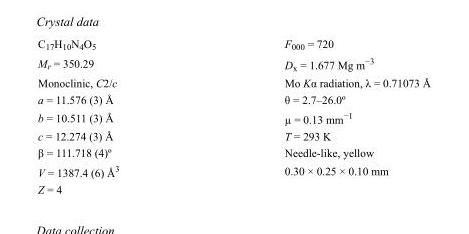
<table><tbody><tr><td>C<sub>17</sub>H<sub>10</sub>N<sub>4</sub>O<sub>5</sub></td><td>F000 = 720</td></tr><tr><td>M<sub>r</sub> = 350.29</td><td>D<sub>x</sub> = 1.677 Mg m<sup>−3</sup></td></tr><tr><td>Monoclinic, C2/c</td><td>Mo Kα radiation, λ = 0.71073 Å</td></tr><tr><td>a = 11.576 (3) Å</td><td>θ = 2.7–26.0º</td></tr><tr><td>b = 10.511 (3) Å</td><td>µ = 0.13 mm<sup>−1</sup></td></tr><tr><td>c = 12.274 (3) Å</td><td>T = 293 K</td></tr><tr><td>β = 111.718 (4)º</td><td>Needle-like, yellow</td></tr><tr><td>V = 1387.4 (6) Å<sup>3</sup></td><td>0.30 × 0.25 × 0.10 mm</td></tr><tr><td>Z = 4</td><td></td></tr></tbody></table>